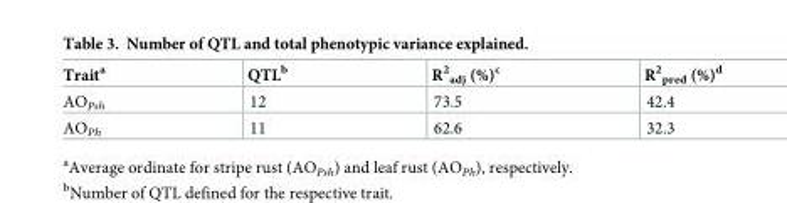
<table><thead><tr><td>Trait<sup>a</sup></td><td>QTL<sup>b</sup></td><td>R<sup>2</sup> <sub>adj</sub> (%)<sup>c</sup></td><td>R<sup>2</sup> <sub>pred</sub> (%)<sup>d</sup></td></tr></thead><tbody><tr><td>AO<sub>Psh</sub></td><td>12</td><td>73.5</td><td>42.4</td></tr><tr><td>AO<sub>Ph</sub></td><td>11</td><td>62.6</td><td>32.3</td></tr></tbody></table>